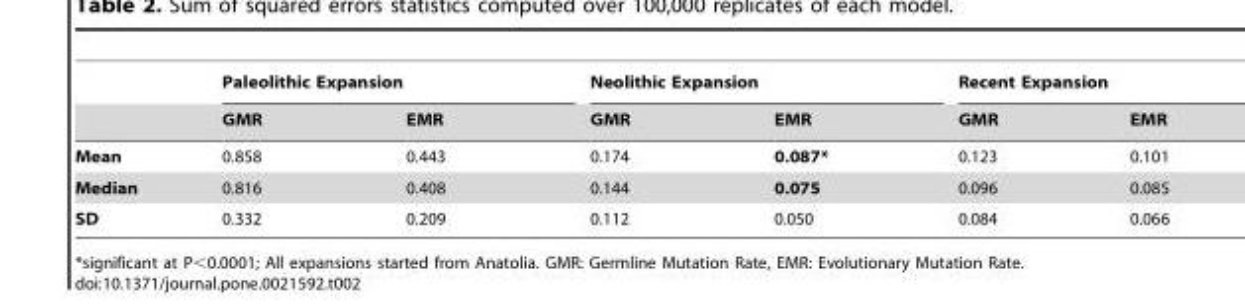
<table><thead><tr><td rowspan="2"></td><td colspan="2">Paleolithic Expansion</td><td colspan="2">Neolithic Expansion</td><td colspan="2">Recent Expansion</td></tr><tr><td>GMR</td><td>EMR</td><td>GMR</td><td>EMR</td><td>GMR</td><td>EMR</td></tr></thead><tbody><tr><td>Mean</td><td>0.858</td><td>0.443</td><td>0.174</td><td>0.087*</td><td>0.123</td><td>0.101</td></tr><tr><td>Median</td><td>0.816</td><td>0.408</td><td>0.144</td><td>0.075</td><td>0.096</td><td>0.085</td></tr><tr><td>SD</td><td>0.332</td><td>0.209</td><td>0.112</td><td>0.050</td><td>0.084</td><td>0.066</td></tr></tbody></table>